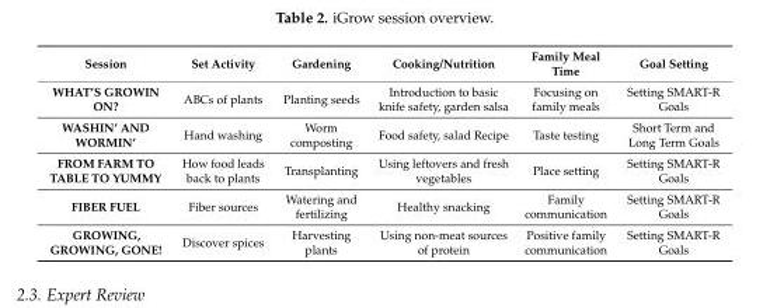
<table><thead><tr><td>Session</td><td>Set Activity</td><td>Gardening</td><td>Cooking/Nutrition</td><td>Family Meal Time</td><td>Goal Setting</td></tr></thead><tbody><tr><td>WHAT’S GROWIN ON?</td><td>ABCs of plants</td><td>Planting seeds</td><td>Introduction to basic knife safety, garden salsa</td><td>Focusing on family meals</td><td>Setting SMART-R Goals</td></tr><tr><td>WASHIN’ AND WORMIN’</td><td>Hand washing</td><td>Worm composting</td><td>Food safety, salad Recipe</td><td>Taste testing</td><td>Short Term and Long Term Goals</td></tr><tr><td>FROM FARM TO TABLE TO YUMMY</td><td>How food leads back to plants</td><td>Transplanting</td><td>Using leftovers and fresh vegetables</td><td>Place setting</td><td>Setting SMART-R Goals</td></tr><tr><td>FIBER FUEL</td><td>Fiber sources</td><td>Watering and fertilizing</td><td>Healthy snacking</td><td>Family communication</td><td>Setting SMART-R Goals</td></tr><tr><td>GROWING, GROWING, GONE!</td><td>Discover spices</td><td>Harvesting plants</td><td>Using non-meat sources of protein</td><td>Positive family communication</td><td>Setting SMART-R Goals</td></tr></tbody></table>